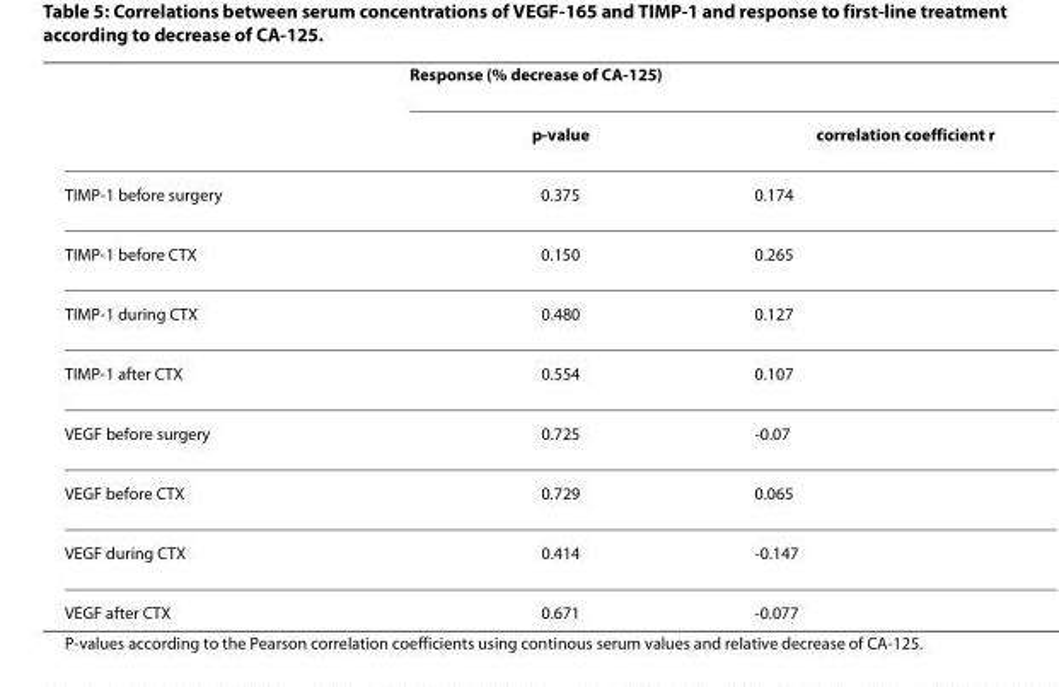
<table><thead><tr><td rowspan="2"></td><td colspan="2">Response (% decrease of CA-125)</td></tr><tr><td>p-value</td><td>correlation coefficient r</td></tr></thead><tbody><tr><td>TIMP-1 before surgery</td><td>0.375</td><td>0.174</td></tr><tr><td>TIMP-1 before CTX</td><td>0.150</td><td>0.265</td></tr><tr><td>TIMP-1 during CTX</td><td>0.480</td><td>0.127</td></tr><tr><td>TIMP-1 after CTX</td><td>0.554</td><td>0.107</td></tr><tr><td>VEGF before surgery</td><td>0.725</td><td>-0.07</td></tr><tr><td>VEGF before CTX</td><td>0.729</td><td>0.065</td></tr><tr><td>VEGF during CTX</td><td>0.414</td><td>-0.147</td></tr><tr><td>VEGF after CTX</td><td>0.671</td><td>-0.077</td></tr></tbody></table>